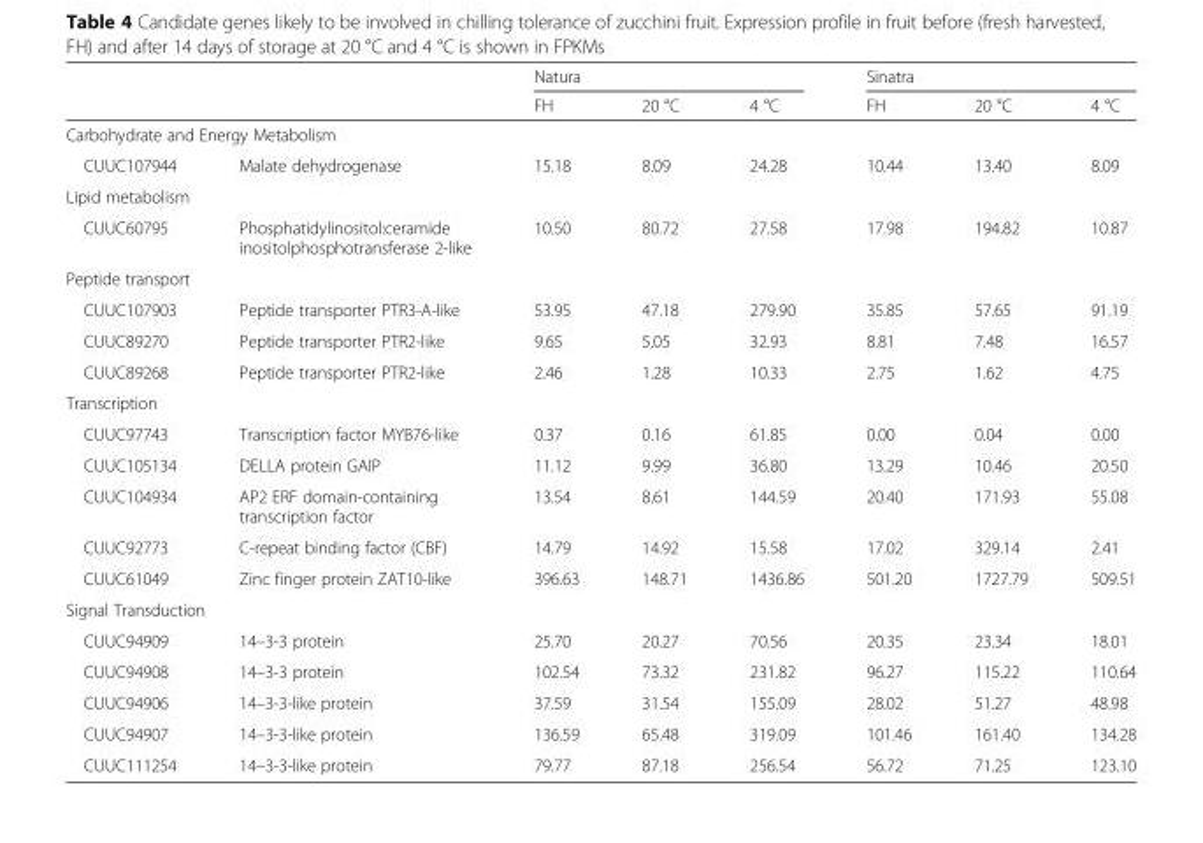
<table><thead><tr><td rowspan="2"></td><td rowspan="2"></td><td colspan="3">Natura</td><td colspan="3">Sinatra</td></tr><tr><td>FH</td><td>20 °C</td><td>4 °C</td><td>FH</td><td>20 °C</td><td>4 °C</td></tr></thead><tbody><tr><td colspan="8">Carbohydrate and Energy Metabolism</td></tr><tr><td>CUUC107944</td><td>Malate dehydrogenase</td><td>15.18</td><td>8.09</td><td>24.28</td><td>10.44</td><td>13.40</td><td>8.09</td></tr><tr><td colspan="8">Lipid metabolism</td></tr><tr><td>CUUC60795</td><td>Phosphatidylinositol:ceramide inositolphosphotransferase 2-like</td><td>10.50</td><td>80.72</td><td>27.58</td><td>17.98</td><td>194.82</td><td>10.87</td></tr><tr><td colspan="8">Peptide transport</td></tr><tr><td>CUUC107903</td><td>Peptide transporter PTR3-A-like</td><td>53.95</td><td>47.18</td><td>279.90</td><td>35.85</td><td>57.65</td><td>91.19</td></tr><tr><td>CUUC89270</td><td>Peptide transporter PTR2-like</td><td>9.65</td><td>5.05</td><td>32.93</td><td>8.81</td><td>7.48</td><td>16.57</td></tr><tr><td>CUUC89268</td><td>Peptide transporter PTR2-like</td><td>2.46</td><td>1.28</td><td>10.33</td><td>2.75</td><td>1.62</td><td>4.75</td></tr><tr><td colspan="8">Transcription</td></tr><tr><td>CUUC97743</td><td>Transcription factor MYB76-like</td><td>0.37</td><td>0.16</td><td>61.85</td><td>0.00</td><td>0.04</td><td>0.00</td></tr><tr><td>CUUC105134</td><td>DELLA protein GAIP</td><td>11.12</td><td>9.99</td><td>36.80</td><td>13.29</td><td>10.46</td><td>20.50</td></tr><tr><td>CUUC104934</td><td>AP2 ERF domain-containing transcription factor</td><td>13.54</td><td>8.61</td><td>144.59</td><td>20.40</td><td>171.93</td><td>55.08</td></tr><tr><td>CUUC92773</td><td>C-repeat binding factor (CBF)</td><td>14.79</td><td>14.92</td><td>15.58</td><td>17.02</td><td>329.14</td><td>2.41</td></tr><tr><td>CUUC61049</td><td>Zinc finger protein ZAT10-like</td><td>396.63</td><td>148.71</td><td>1436.86</td><td>501.20</td><td>1727.79</td><td>509.51</td></tr><tr><td colspan="8">Signal Transduction</td></tr><tr><td>CUUC94909</td><td>14–3-3 protein</td><td>25.70</td><td>20.27</td><td>70.56</td><td>20.35</td><td>23.34</td><td>18.01</td></tr><tr><td>CUUC94908</td><td>14–3-3 protein</td><td>102.54</td><td>73.32</td><td>231.82</td><td>96.27</td><td>115.22</td><td>110.64</td></tr><tr><td>CUUC94906</td><td>14–3-3-like protein</td><td>37.59</td><td>31.54</td><td>155.09</td><td>28.02</td><td>51.27</td><td>48.98</td></tr><tr><td>CUUC94907</td><td>14–3-3-like protein</td><td>136.59</td><td>65.48</td><td>319.09</td><td>101.46</td><td>161.40</td><td>134.28</td></tr><tr><td>CUUC111254</td><td>14–3-3-like protein</td><td>79.77</td><td>87.18</td><td>256.54</td><td>56.72</td><td>71.25</td><td>123.10</td></tr></tbody></table>